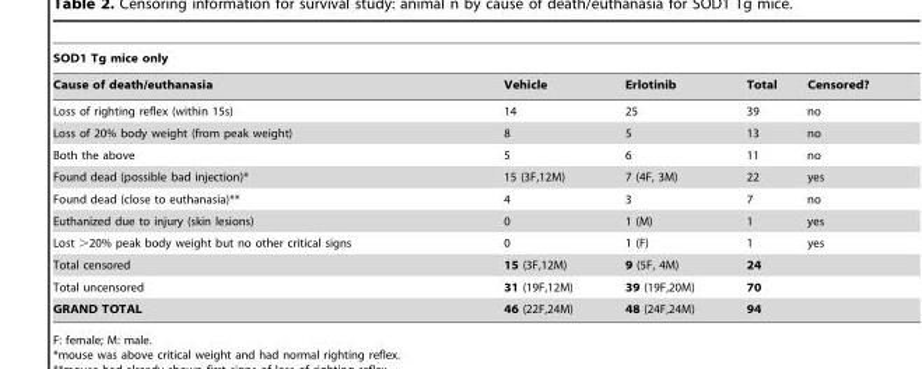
<table><thead><tr><td colspan="5">SOD1 Tg mice only</td></tr><tr><td>Cause of death/euthanasia</td><td>Vehicle</td><td>Erlotinib</td><td>Total</td><td>Censored?</td></tr></thead><tbody><tr><td>Loss of righting reflex (within 15s)</td><td>14</td><td>25</td><td>39</td><td>no</td></tr><tr><td>Loss of 20% body weight (from peak weight)</td><td>8</td><td>5</td><td>13</td><td>no</td></tr><tr><td>Both the above</td><td>5</td><td>6</td><td>11</td><td>no</td></tr><tr><td>Found dead (possible bad injection)*</td><td>15 (3F,12M)</td><td>7 (4F, 3M)</td><td>22</td><td>yes</td></tr><tr><td>Found dead (close to euthanasia)**</td><td>4</td><td>3</td><td>7</td><td>no</td></tr><tr><td>Euthanized due to injury (skin lesions)</td><td>0</td><td>1 (M)</td><td>1</td><td>yes</td></tr><tr><td>Lost &gt;20% peak body weight but no other critical signs</td><td>0</td><td>1 (F)</td><td>1</td><td>yes</td></tr><tr><td>Total censored</td><td>15 (3F,12M)</td><td>9 (5F, 4M)</td><td>24</td><td></td></tr><tr><td>Total uncensored</td><td>31 (19F,12M)</td><td>39 (19F,20M)</td><td>70</td><td></td></tr><tr><td>GRAND TOTAL</td><td>46 (22F,24M)</td><td>48 (24F,24M)</td><td>94</td><td></td></tr></tbody></table>